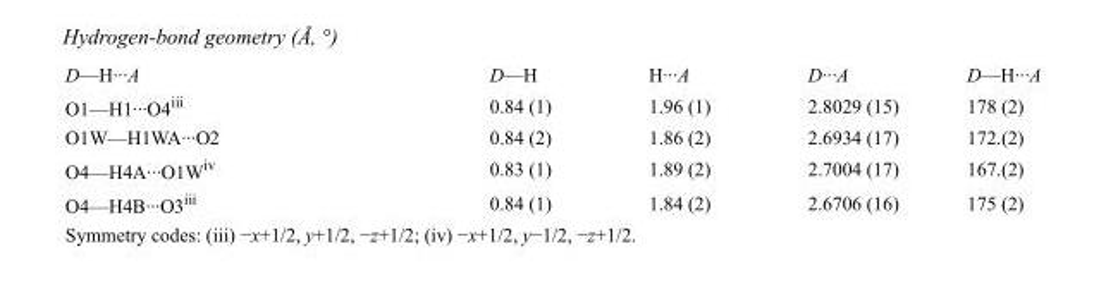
<table><tbody><tr><td>D—H···A</td><td>D—H</td><td>H···A</td><td>D···A</td><td>D—H···A</td></tr><tr><td>O1—H1···O4<sup>iii</sup></td><td>0.84 (1)</td><td>1.96 (1)</td><td>2.8029 (15)</td><td>178 (2)</td></tr><tr><td>O1W—H1WA···O2</td><td>0.84 (2)</td><td>1.86 (2)</td><td>2.6934 (17)</td><td>172.(2)</td></tr><tr><td>O4—H4A···O1W<sup>iv</sup></td><td>0.83 (1)</td><td>1.89 (2)</td><td>2.7004 (17)</td><td>167.(2)</td></tr><tr><td>O4—H4B···O3<sup>iii</sup></td><td>0.84 (1)</td><td>1.84 (2)</td><td>2.6706 (16)</td><td>175 (2)</td></tr></tbody></table>